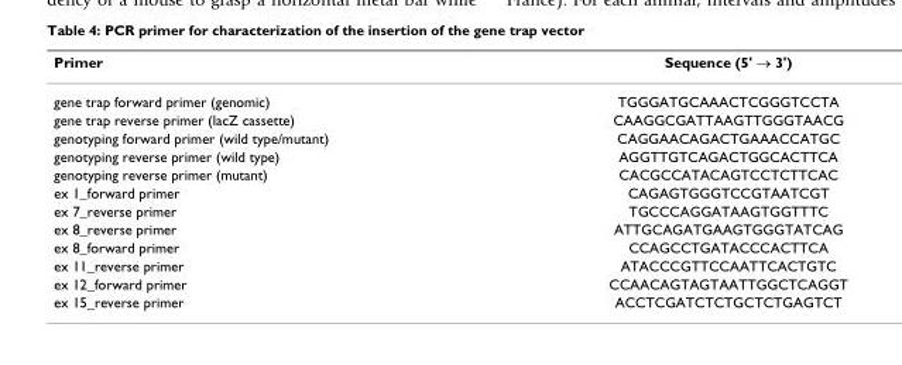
<table><thead><tr><td>Primer</td><td>Sequence (5&#x27; → 3&#x27;)</td></tr></thead><tbody><tr><td>gene trap forward primer (genomic)</td><td>TGGGATGCAAACTCGGGTCCTA</td></tr><tr><td>gene trap reverse primer (lacZ cassette)</td><td>CAAGGCGATTAAGTTGGGTAACG</td></tr><tr><td>genotyping forward primer (wild type/mutant)</td><td>CAGGAACAGACTGAAACCATGC</td></tr><tr><td>genotyping reverse primer (wild type)</td><td>AGGTTGTCAGACTGGCACTTCA</td></tr><tr><td>genotyping reverse primer (mutant)</td><td>CACGCCATACAGTCCTCTTCAC</td></tr><tr><td>ex 1_forward primer</td><td>CAGAGTGGGTCCGTAATCGT</td></tr><tr><td>ex 7_reverse primer</td><td>TGCCCAGGATAAGTGGTTTC</td></tr><tr><td>ex 8_reverse primer</td><td>ATTGCAGATGAAGTGGGTATCAG</td></tr><tr><td>ex 8_forward primer</td><td>CCAGCCTGATACCCACTTCA</td></tr><tr><td>ex 11_reverse primer</td><td>ATACCCGTTCCAATTCACTGTC</td></tr><tr><td>ex 12_forward primer</td><td>CCAACAGTAGTAATTGGCTCAGGT</td></tr><tr><td>ex 15_reverse primer</td><td>ACCTCGATCTCTGCTCTGAGTCT</td></tr></tbody></table>